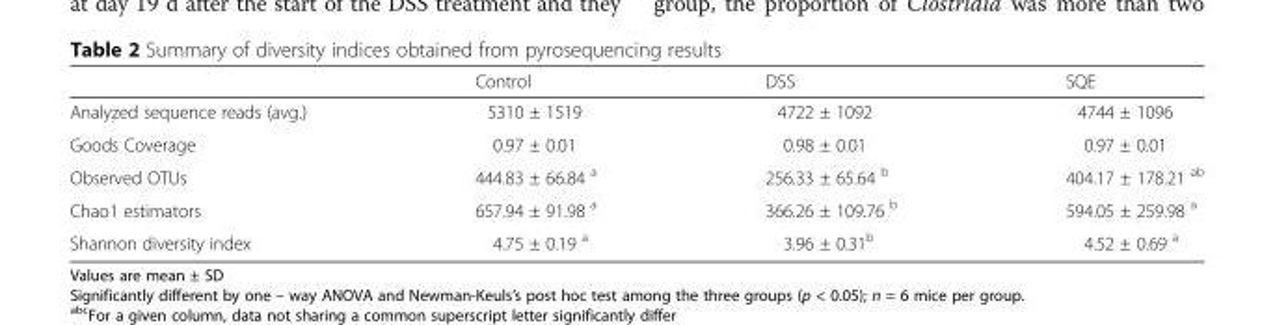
<table><thead><tr><td></td><td>Control</td><td>DSS</td><td>SQE</td></tr></thead><tbody><tr><td>Analyzed sequence reads (avg.)</td><td>5310 ± 1519</td><td>4722 ± 1092</td><td>4744 ± 1096</td></tr><tr><td>Goods Coverage</td><td>0.97 ± 0.01</td><td>0.98 ± 0.01</td><td>0.97 ± 0.01</td></tr><tr><td>Observed OTUs</td><td>444.83 ± 66.84 <sup>a</sup></td><td>256.33 ± 65.64 <sup>b</sup></td><td>404.17 ± 178.21 <sup>ab</sup></td></tr><tr><td>Chao1 estimators</td><td>657.94 ± 91.98 <sup>a</sup></td><td>366.26 ± 109.76 <sup>b</sup></td><td>594.05 ± 259.98 <sup>a</sup></td></tr><tr><td>Shannon diversity index</td><td>4.75 ± 0.19 <sup>a</sup></td><td>3.96 ± 0.31<sup>b</sup></td><td>4.52 ± 0.69 <sup>a</sup></td></tr></tbody></table>